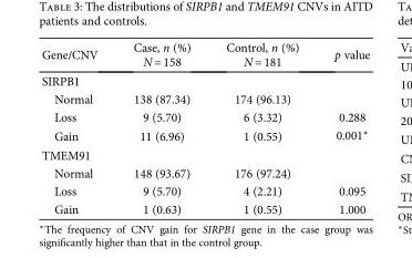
<table><thead><tr><td>Gene/CNV</td><td>Case, n (%) N = 158</td><td>Control, n (%) N = 181</td><td>p value</td></tr></thead><tbody><tr><td colspan="4">SIRPB1</td></tr><tr><td>Normal</td><td>138 (87.34)</td><td>174 (96.13)</td><td></td></tr><tr><td>Loss</td><td>9 (5.70)</td><td>6 (3.32)</td><td>0.288</td></tr><tr><td>Gain</td><td>11 (6.96)</td><td>1 (0.55)</td><td>0.001∗</td></tr><tr><td colspan="4">TMEM91</td></tr><tr><td>Normal</td><td>148 (93.67)</td><td>176 (97.24)</td><td></td></tr><tr><td>Loss</td><td>9 (5.70)</td><td>4 (2.21)</td><td>0.095</td></tr><tr><td>Gain</td><td>1 (0.63)</td><td>1 (0.55)</td><td>1.000</td></tr></tbody></table>